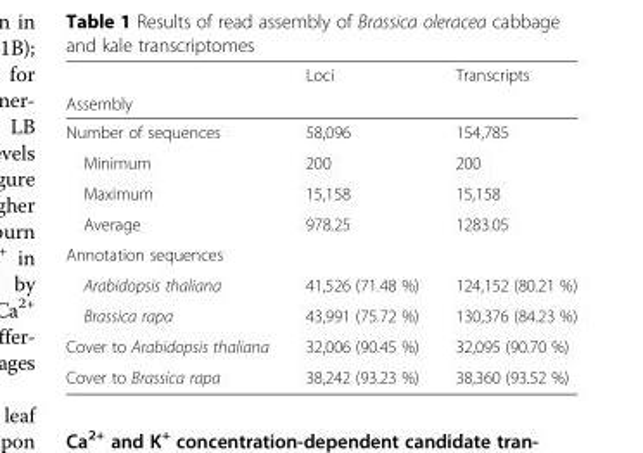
<table><thead><tr><td rowspan="2">Assembly</td><td rowspan="2">Loci</td><td rowspan="2">Transcripts</td></tr><tr></tr></thead><tbody><tr><td>Number of sequences</td><td>58,096</td><td>154,785</td></tr><tr><td>Minimum</td><td>200</td><td>200</td></tr><tr><td>Maximum</td><td>15,158</td><td>15,158</td></tr><tr><td>Average</td><td>978.25</td><td>1283.05</td></tr><tr><td colspan="3">Annotation sequences</td></tr><tr><td>Arabidopsis thaliana</td><td>41,526 (71.48 %)</td><td>124,152 (80.21 %)</td></tr><tr><td>Brassica rapa</td><td>43,991 (75.72 %)</td><td>130,376 (84.23 %)</td></tr><tr><td>Cover to Arabidopsis thaliana</td><td>32,006 (90.45 %)</td><td>32,095 (90.70 %)</td></tr><tr><td>Cover to Brassica rapa</td><td>38,242 (93.23 %)</td><td>38,360 (93.52 %)</td></tr></tbody></table>